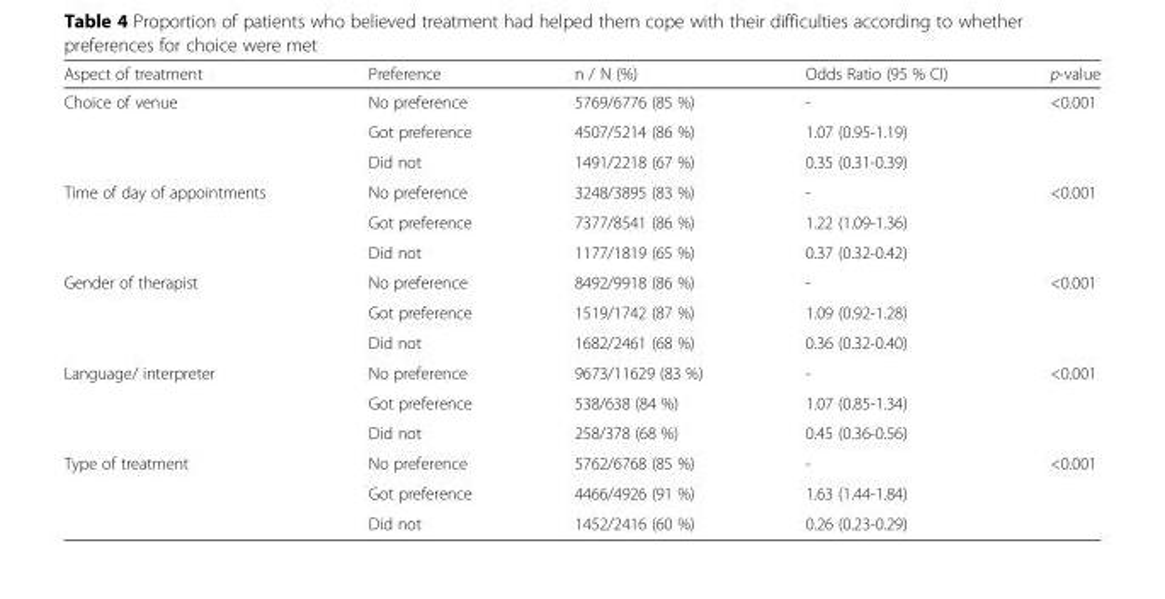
<table><thead><tr><td>Aspect of treatment</td><td>Preference</td><td>n / N (%)</td><td>Odds Ratio (95 % CI)</td><td>p-value</td></tr></thead><tbody><tr><td rowspan="3">Choice of venue</td><td>No preference</td><td>5769/6776 (85 %)</td><td>-</td><td rowspan="3">&lt;0.001</td></tr><tr><td>Got preference</td><td>4507/5214 (86 %)</td><td>1.07 (0.95-1.19)</td></tr><tr><td>Did not</td><td>1491/2218 (67 %)</td><td>0.35 (0.31-0.39)</td></tr><tr><td rowspan="3">Time of day of appointments</td><td>No preference</td><td>3248/3895 (83 %)</td><td>-</td><td rowspan="3">&lt;0.001</td></tr><tr><td>Got preference</td><td>7377/8541 (86 %)</td><td>1.22 (1.09-1.36)</td></tr><tr><td>Did not</td><td>1177/1819 (65 %)</td><td>0.37 (0.32-0.42)</td></tr><tr><td rowspan="3">Gender of therapist</td><td>No preference</td><td>8492/9918 (86 %)</td><td>-</td><td rowspan="3">&lt;0.001</td></tr><tr><td>Got preference</td><td>1519/1742 (87 %)</td><td>1.09 (0.92-1.28)</td></tr><tr><td>Did not</td><td>1682/2461 (68 %)</td><td>0.36 (0.32-0.40)</td></tr><tr><td rowspan="3">Language/ interpreter</td><td>No preference</td><td>9673/11629 (83 %)</td><td>-</td><td rowspan="3">&lt;0.001</td></tr><tr><td>Got preference</td><td>538/638 (84 %)</td><td>1.07 (0.85-1.34)</td></tr><tr><td>Did not</td><td>258/378 (68 %)</td><td>0.45 (0.36-0.56)</td></tr><tr><td rowspan="3">Type of treatment</td><td>No preference</td><td>5762/6768 (85 %)</td><td>-</td><td rowspan="3">&lt;0.001</td></tr><tr><td>Got preference</td><td>4466/4926 (91 %)</td><td>1.63 (1.44-1.84)</td></tr><tr><td>Did not</td><td>1452/2416 (60 %)</td><td>0.26 (0.23-0.29)</td></tr></tbody></table>